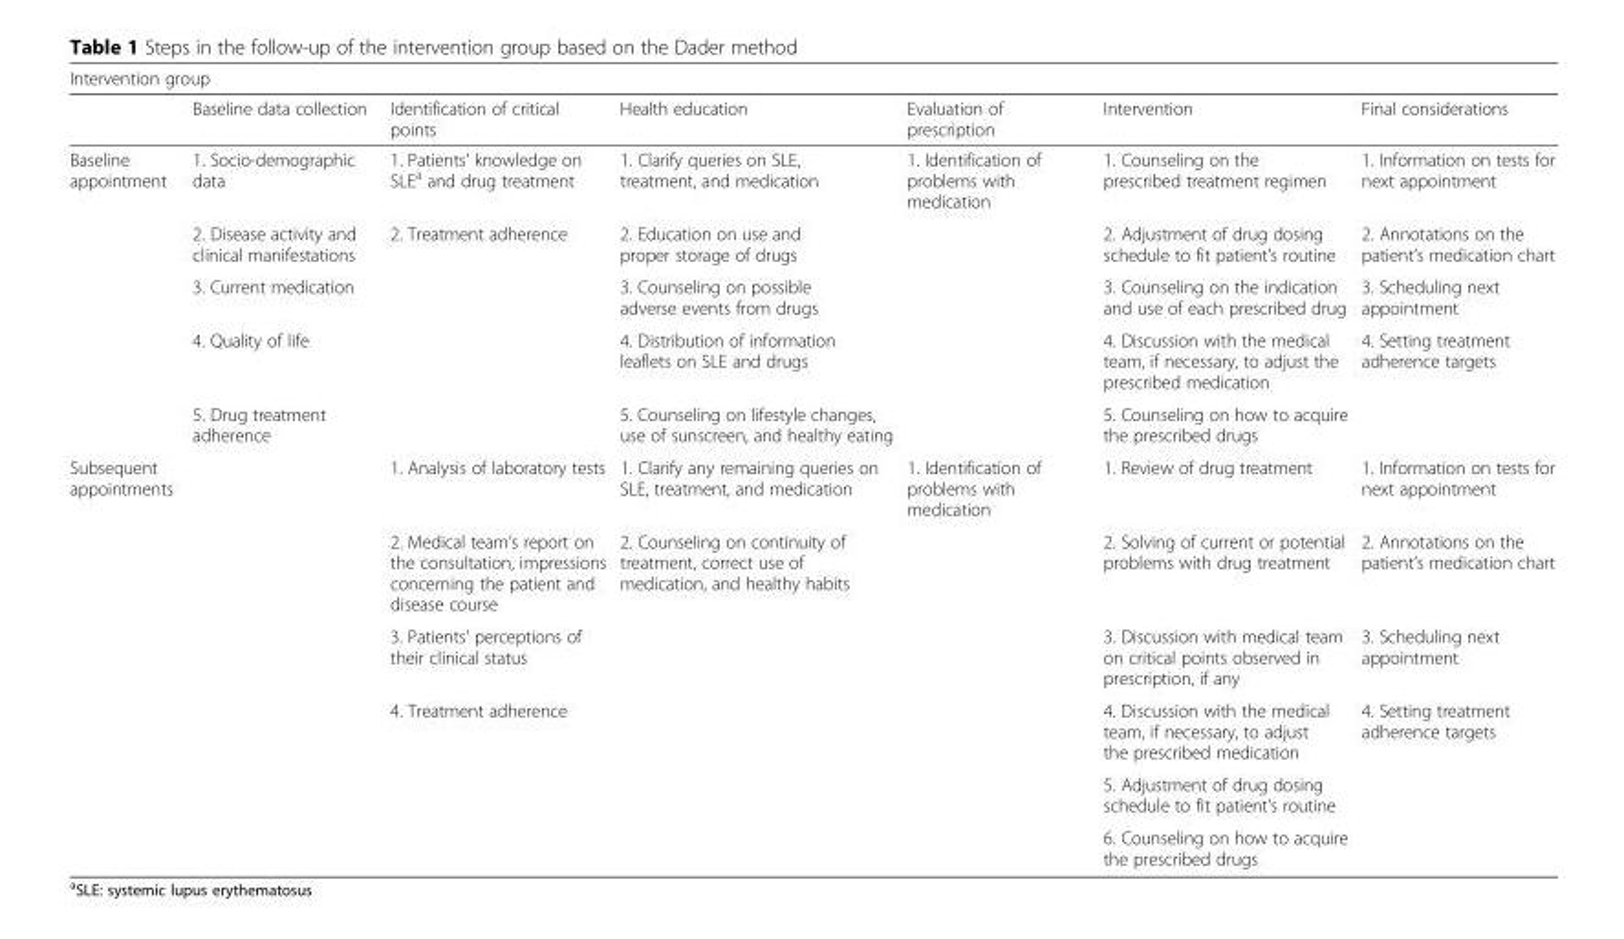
<table><thead><tr><td colspan="7">Intervention group</td></tr><tr><td></td><td>Baseline data collection</td><td>Identification of critical points</td><td>Health education</td><td>Evaluation of prescription</td><td>Intervention</td><td>Final considerations</td></tr></thead><tbody><tr><td rowspan="5">Baseline appointment</td><td>1. Socio-demographic data</td><td>1. Patients’ knowledge on SLE<sup>a</sup> and drug treatment</td><td>1. Clarify queries on SLE, treatment, and medication</td><td>1. Identification of problems with medication</td><td>1. Counseling on the prescribed treatment regimen</td><td>1. Information on tests for next appointment</td></tr><tr><td>2. Disease activity and clinical manifestations</td><td>2. Treatment adherence</td><td>2. Education on use and proper storage of drugs</td><td></td><td>2. Adjustment of drug dosing schedule to fit patient’s routine</td><td>2. Annotations on the patient’s medication chart</td></tr><tr><td>3. Current medication</td><td></td><td>3. Counseling on possible adverse events from drugs</td><td></td><td>3. Counseling on the indication and use of each prescribed drug</td><td>3. Scheduling next appointment</td></tr><tr><td>4. Quality of life</td><td></td><td>4. Distribution of information leaflets on SLE and drugs</td><td></td><td>4. Discussion with the medical team, if necessary, to adjust the prescribed medication</td><td>4. Setting treatment adherence targets</td></tr><tr><td>5. Drug treatment adherence</td><td></td><td>5. Counseling on lifestyle changes, use of sunscreen, and healthy eating</td><td></td><td>5. Counseling on how to acquire the prescribed drugs</td><td></td></tr><tr><td rowspan="6">Subsequent appointments</td><td></td><td>1. Analysis of laboratory tests</td><td>1. Clarify any remaining queries on SLE, treatment, and medication</td><td>1. Identification of problems with medication</td><td>1. Review of drug treatment</td><td>1. Information on tests for next appointment</td></tr><tr><td></td><td>2. Medical team’s report on the consultation, impressions concerning the patient and disease course</td><td>2. Counseling on continuity of treatment, correct use of medication, and healthy habits</td><td></td><td>2. Solving of current or potential problems with drug treatment</td><td>2. Annotations on the patient’s medication chart</td></tr><tr><td></td><td>3. Patients’ perceptions of their clinical status</td><td></td><td></td><td>3. Discussion with medical team on critical points observed in prescription, if any</td><td>3. Scheduling next appointment</td></tr><tr><td></td><td>4. Treatment adherence</td><td></td><td></td><td>4. Discussion with the medical team, if necessary, to adjust the prescribed medication</td><td>4. Setting treatment adherence targets</td></tr><tr><td></td><td></td><td></td><td></td><td>5. Adjustment of drug dosing schedule to fit patient’s routine</td><td></td></tr><tr><td></td><td></td><td></td><td></td><td>6. Counseling on how to acquire the prescribed drugs</td><td></td></tr></tbody></table>